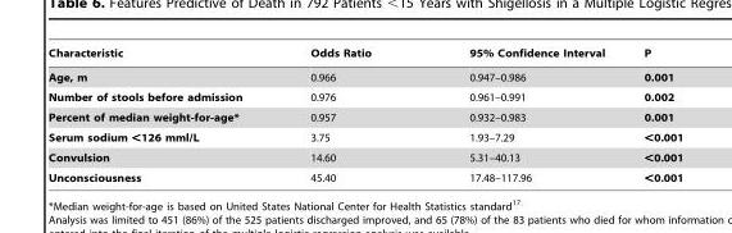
<table><thead><tr><td>Characteristic</td><td>Odds Ratio</td><td>95% Confidence Interval</td><td>P</td></tr></thead><tbody><tr><td>Age, m</td><td>0.966</td><td>0.947–0.986</td><td>0.001</td></tr><tr><td>Number of stools before admission</td><td>0.976</td><td>0.961–0.991</td><td>0.002</td></tr><tr><td>Percent of median weight-for-age*</td><td>0.957</td><td>0.932–0.983</td><td>0.001</td></tr><tr><td>Serum sodium &lt;126 mml/L</td><td>3.75</td><td>1.93–7.29</td><td>&lt;0.001</td></tr><tr><td>Convulsion</td><td>14.60</td><td>5.31–40.13</td><td>&lt;0.001</td></tr><tr><td>Unconsciousness</td><td>45.40</td><td>17.48–117.96</td><td>&lt;0.001</td></tr></tbody></table>